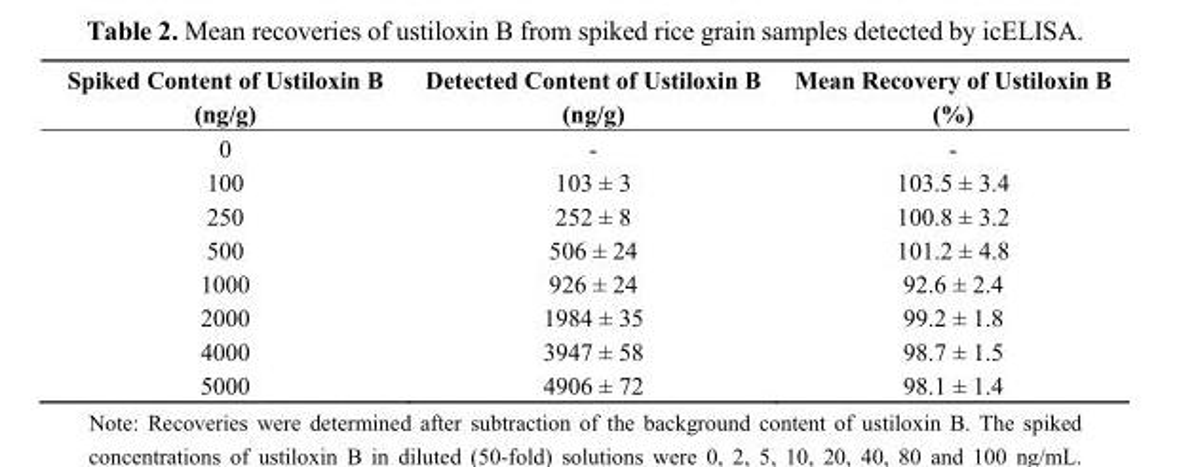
<table><thead><tr><td>Spiked Content of Ustiloxin B (ng/g)</td><td>Detected Content of Ustiloxin B (ng/g)</td><td>Mean Recovery of Ustiloxin B (%)</td></tr></thead><tbody><tr><td>0</td><td>-</td><td>-</td></tr><tr><td>100</td><td>103 ± 3</td><td>103.5 ± 3.4</td></tr><tr><td>250</td><td>252 ± 8</td><td>100.8 ± 3.2</td></tr><tr><td>500</td><td>506 ± 24</td><td>101.2 ± 4.8</td></tr><tr><td>1000</td><td>926 ± 24</td><td>92.6 ± 2.4</td></tr><tr><td>2000</td><td>1984 ± 35</td><td>99.2 ± 1.8</td></tr><tr><td>4000</td><td>3947 ± 58</td><td>98.7 ± 1.5</td></tr><tr><td>5000</td><td>4906 ± 72</td><td>98.1 ± 1.4</td></tr></tbody></table>